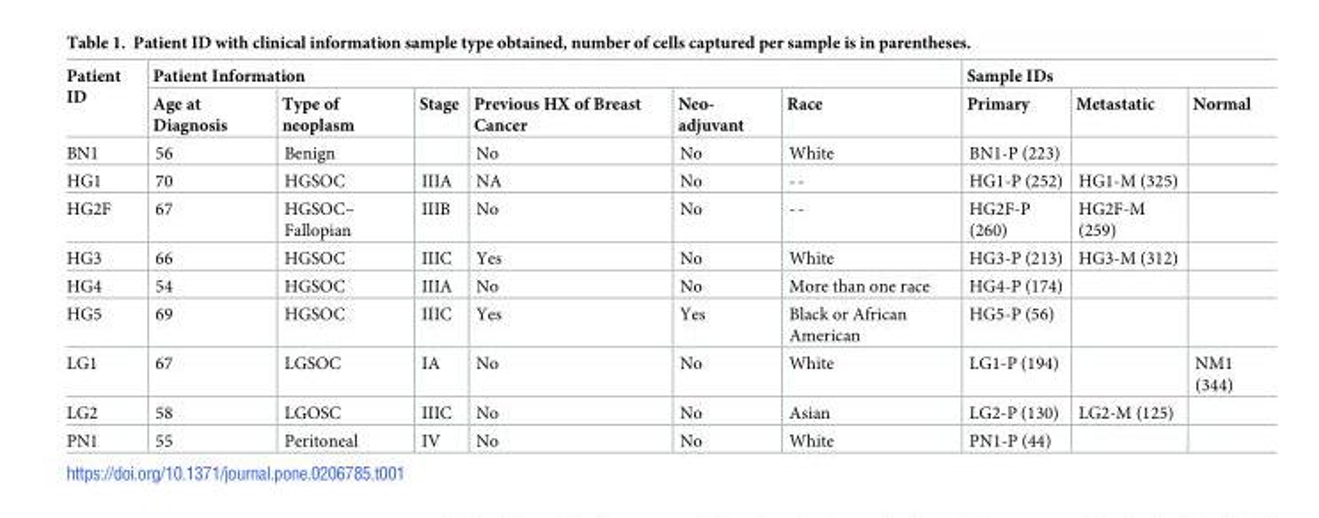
<table><thead><tr><td rowspan="2">Patient ID</td><td colspan="6">Patient Information</td><td colspan="3">Sample IDs</td></tr><tr><td>Age at Diagnosis</td><td>Type of neoplasm</td><td>Stage</td><td>Previous HX of Breast Cancer</td><td>Neo- adjuvant</td><td>Race</td><td>Primary</td><td>Metastatic</td><td>Normal</td></tr></thead><tbody><tr><td>BN1</td><td>56</td><td>Benign</td><td></td><td>No</td><td>No</td><td>White</td><td>BN1-P (223)</td><td></td><td></td></tr><tr><td>HG1</td><td>70</td><td>HGSOC</td><td>IIIA</td><td>NA</td><td>No</td><td>--</td><td>HG1-P (252)</td><td>HG1-M (325)</td><td></td></tr><tr><td>HG2F</td><td>67</td><td>HGSOC– Fallopian</td><td>IIIB</td><td>No</td><td>No</td><td>--</td><td>HG2F-P (260)</td><td>HG2F-M (259)</td><td></td></tr><tr><td>HG3</td><td>66</td><td>HGSOC</td><td>IIIC</td><td>Yes</td><td>No</td><td>White</td><td>HG3-P (213)</td><td>HG3-M (312)</td><td></td></tr><tr><td>HG4</td><td>54</td><td>HGSOC</td><td>IIIA</td><td>No</td><td>No</td><td>More than one race</td><td>HG4-P (174)</td><td></td><td></td></tr><tr><td>HG5</td><td>69</td><td>HGSOC</td><td>IIIC</td><td>Yes</td><td>Yes</td><td>Black or African American</td><td>HG5-P (56)</td><td></td><td></td></tr><tr><td>LG1</td><td>67</td><td>LGSOC</td><td>IA</td><td>No</td><td>No</td><td>White</td><td>LG1-P (194)</td><td></td><td>NM1 (344)</td></tr><tr><td>LG2</td><td>58</td><td>LGOSC</td><td>IIIC</td><td>No</td><td>No</td><td>Asian</td><td>LG2-P (130)</td><td>LG2-M (125)</td><td></td></tr><tr><td>PN1</td><td>55</td><td>Peritoneal</td><td>IV</td><td>No</td><td>No</td><td>White</td><td>PN1-P (44)</td><td></td><td></td></tr></tbody></table>